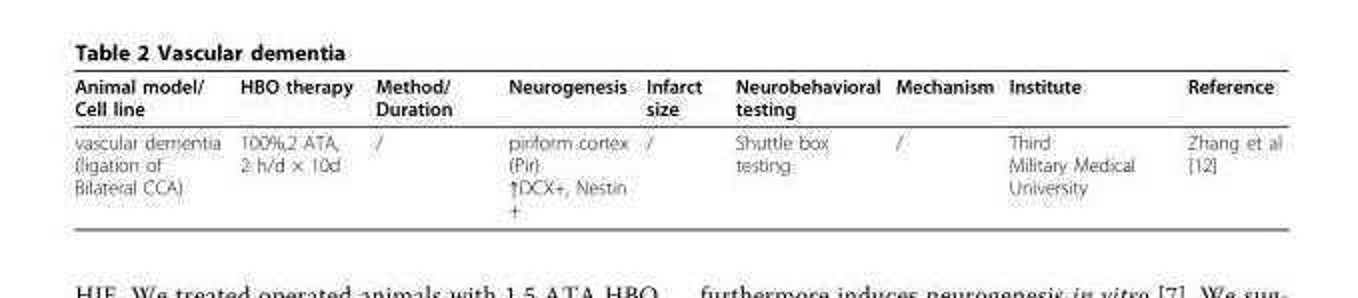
<table><thead><tr><td>Animal model/ Cell line</td><td>HBO therapy</td><td>Method/ Duration</td><td>Neurogenesis</td><td>Infarct size</td><td>Neurobehavioral testing</td><td>Mechanism</td><td>Institute</td><td>Reference</td></tr></thead><tbody><tr><td>vascular dementia (ligation of Bilateral CCA)</td><td>100%,2 ATA, 2 h/d × 10d</td><td>/</td><td>piriform cortex (Pir) ↑DCX+, Nestin +</td><td>/</td><td>Shuttle box testing</td><td>/</td><td>Third Military Medical University</td><td>Zhang et al [12]</td></tr></tbody></table>